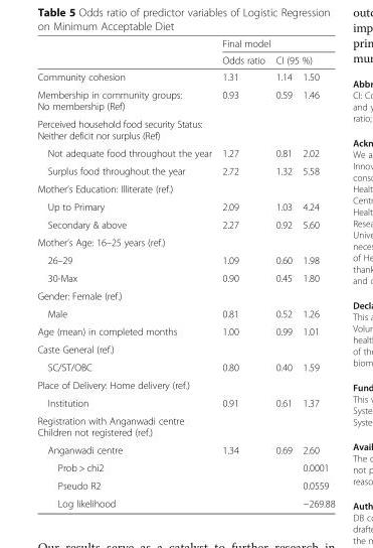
<table><thead><tr><td rowspan="3">Community cohesion</td><td colspan="3">Final model</td></tr><tr><td rowspan="2">Odds ratio 1.31</td><td colspan="2">CI (95 %)</td></tr><tr><td>1.14</td><td>1.50</td></tr></thead><tbody><tr><td>Membership in community groups: No membership (Ref)</td><td>0.93</td><td>0.59</td><td>1.46</td></tr><tr><td colspan="4">Perceived household food security Status: Neither deficit nor surplus (Ref)</td></tr><tr><td>Not adequate food throughout the year</td><td>1.27</td><td>0.81</td><td>2.02</td></tr><tr><td>Surplus food throughout the year</td><td>2.72</td><td>1.32</td><td>5.58</td></tr><tr><td colspan="4">Mother’s Education: Illiterate (ref.)</td></tr><tr><td>Up to Primary</td><td>2.09</td><td>1.03</td><td>4.24</td></tr><tr><td>Secondary &amp; above</td><td>2.27</td><td>0.92</td><td>5.60</td></tr><tr><td colspan="4">Mother’s Age: 16–25 years (ref.)</td></tr><tr><td>26–29</td><td>1.09</td><td>0.60</td><td>1.98</td></tr><tr><td>30-Max</td><td>0.90</td><td>0.45</td><td>1.80</td></tr><tr><td colspan="4">Gender: Female (ref.)</td></tr><tr><td>Male</td><td>0.81</td><td>0.52</td><td>1.26</td></tr><tr><td>Age (mean) in completed months</td><td>1.00</td><td>0.99</td><td>1.01</td></tr><tr><td colspan="4">Caste General (ref.)</td></tr><tr><td>SC/ST/OBC</td><td>0.80</td><td>0.40</td><td>1.59</td></tr><tr><td colspan="4">Place of Delivery: Home delivery (ref.)</td></tr><tr><td>Institution</td><td>0.91</td><td>0.61</td><td>1.37</td></tr><tr><td colspan="4">Registration with Anganwadi centre Children not registered (ref.)</td></tr><tr><td>Anganwadi centre</td><td>1.34</td><td>0.69</td><td>2.60</td></tr><tr><td>Prob &gt; chi2</td><td></td><td></td><td>0.0001</td></tr><tr><td>Pseudo R2</td><td></td><td></td><td>0.0559</td></tr><tr><td>Log likelihood</td><td></td><td></td><td>−269.88</td></tr></tbody></table>